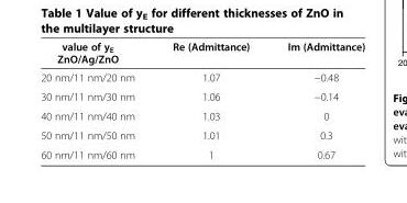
<table><thead><tr><td>value of y<sub>E</sub> ZnO/Ag/ZnO</td><td>Re (Admittance)</td><td>Im (Admittance)</td></tr></thead><tbody><tr><td>20 nm/11 nm/20 nm</td><td>1.07</td><td>−0.48</td></tr><tr><td>30 nm/11 nm/30 nm</td><td>1.06</td><td>−0.14</td></tr><tr><td>40 nm/11 nm/40 nm</td><td>1.03</td><td>0</td></tr><tr><td>50 nm/11 nm/50 nm</td><td>1.01</td><td>0.3</td></tr><tr><td>60 nm/11 nm/60 nm</td><td>1</td><td>0.67</td></tr></tbody></table>